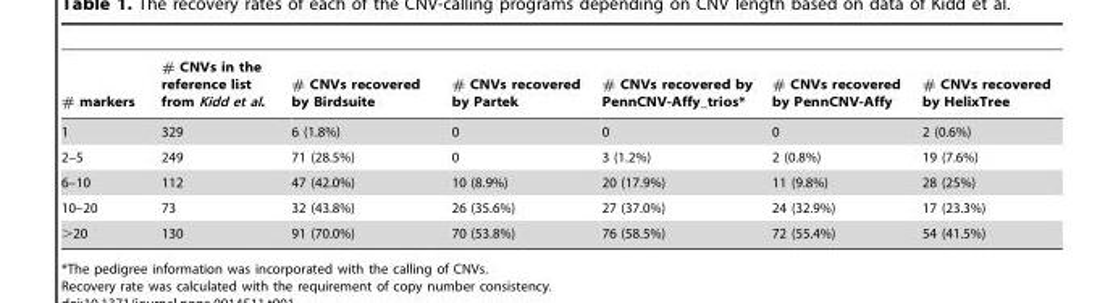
<table><thead><tr><td># markers</td><td># CNVs in the reference list from Kidd et al.</td><td># CNVs recovered by Birdsuite</td><td># CNVs recovered by Partek</td><td># CNVs recovered by PennCNV-Affy_trios*</td><td># CNVs recovered by PennCNV-Affy</td><td># CNVs recovered by HelixTree</td></tr></thead><tbody><tr><td>1</td><td>329</td><td>6 (1.8%)</td><td>0</td><td>0</td><td>0</td><td>2 (0.6%)</td></tr><tr><td>2–5</td><td>249</td><td>71 (28.5%)</td><td>0</td><td>3 (1.2%)</td><td>2 (0.8%)</td><td>19 (7.6%)</td></tr><tr><td>6–10</td><td>112</td><td>47 (42.0%)</td><td>10 (8.9%)</td><td>20 (17.9%)</td><td>11 (9.8%)</td><td>28 (25%)</td></tr><tr><td>10–20</td><td>73</td><td>32 (43.8%)</td><td>26 (35.6%)</td><td>27 (37.0%)</td><td>24 (32.9%)</td><td>17 (23.3%)</td></tr><tr><td>&gt;20</td><td>130</td><td>91 (70.0%)</td><td>70 (53.8%)</td><td>76 (58.5%)</td><td>72 (55.4%)</td><td>54 (41.5%)</td></tr></tbody></table>